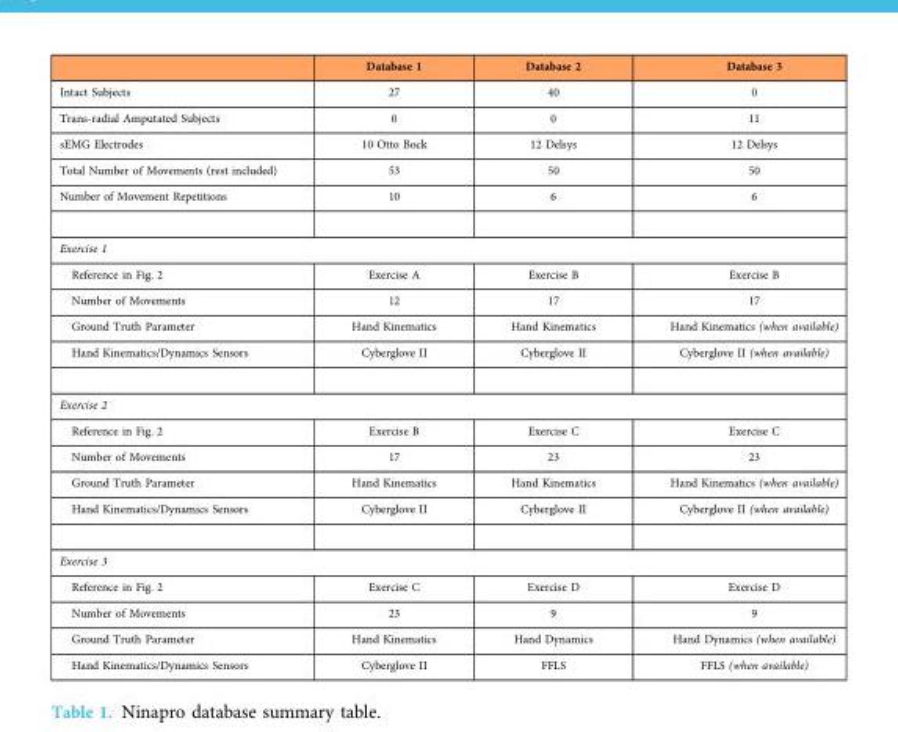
<table><thead><tr><td></td><td>Database 1</td><td>Database 2</td><td>Database 3</td></tr></thead><tbody><tr><td>Intact Subjects</td><td>27</td><td>40</td><td>0</td></tr><tr><td>Trans-radial Amputated Subjects</td><td>0</td><td>0</td><td>11</td></tr><tr><td>sEMG Electrodes</td><td>10 Otto Bock</td><td>12 Delsys</td><td>12 Delsys</td></tr><tr><td>Total Number of Movements (rest included)</td><td>53</td><td>50</td><td>50</td></tr><tr><td>Number of Movement Repetitions</td><td>10</td><td>6</td><td>6</td></tr><tr><td colspan="4">Exercise 1</td></tr><tr><td>Reference in Fig. 2</td><td>Exercise A</td><td>Exercise B</td><td>Exercise B</td></tr><tr><td>Number of Movements</td><td>12</td><td>17</td><td>17</td></tr><tr><td>Ground Truth Parameter</td><td>Hand Kinematics</td><td>Hand Kinematics</td><td>Hand Kinematics (when available)</td></tr><tr><td>Hand Kinematics/Dynamics Sensors</td><td>Cyberglove II</td><td>Cyberglove II</td><td>Cyberglove II (when available)</td></tr><tr><td colspan="4">Exercise 2</td></tr><tr><td>Reference in Fig. 2</td><td>Exercise B</td><td>Exercise C</td><td>Exercise C</td></tr><tr><td>Number of Movements</td><td>17</td><td>23</td><td>23</td></tr><tr><td>Ground Truth Parameter</td><td>Hand Kinematics</td><td>Hand Kinematics</td><td>Hand Kinematics (when available)</td></tr><tr><td>Hand Kinematics/Dynamics Sensors</td><td>Cyberglove II</td><td>Cyberglove II</td><td>Cyberglove II (when available)</td></tr><tr><td colspan="4">Exercise 3</td></tr><tr><td>Reference in Fig. 2</td><td>Exercise C</td><td>Exercise D</td><td>Exercise D</td></tr><tr><td>Number of Movements</td><td>23</td><td>9</td><td>9</td></tr><tr><td>Ground Truth Parameter</td><td>Hand Kinematics</td><td>Hand Dynamics</td><td>Hand Dynamics (when available)</td></tr><tr><td>Hand Kinematics/Dynamics Sensors</td><td>Cyberglove II</td><td>FFLS</td><td>FFLS (when available)</td></tr></tbody></table>